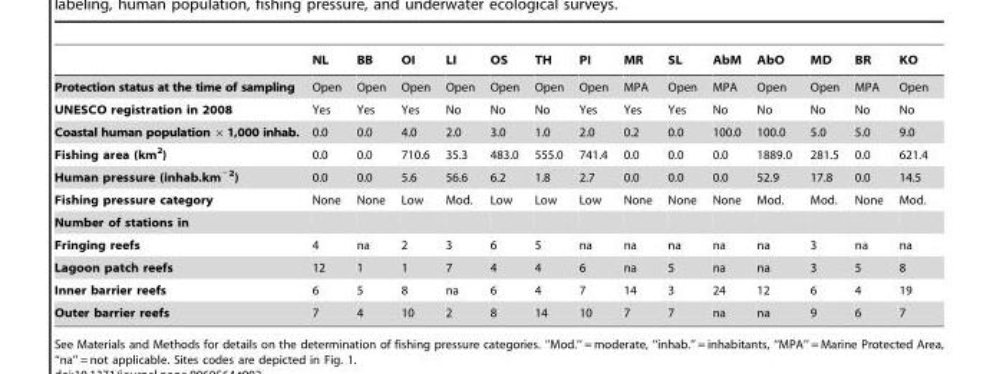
<table><thead><tr><td></td><td>NL</td><td>BB</td><td>OI</td><td>LI</td><td>OS</td><td>TH</td><td>PI</td><td>MR</td><td>SL</td><td>AbM</td><td>AbO</td><td>MD</td><td>BR</td><td>KO</td></tr></thead><tbody><tr><td>Protection status at the time of sampling</td><td>Open</td><td>Open</td><td>Open</td><td>Open</td><td>Open</td><td>Open</td><td>Open</td><td>MPA</td><td>Open</td><td>MPA</td><td>Open</td><td>Open</td><td>MPA</td><td>Open</td></tr><tr><td>UNESCO registration in 2008</td><td>Yes</td><td>Yes</td><td>Yes</td><td>No</td><td>No</td><td>No</td><td>Yes</td><td>Yes</td><td>Yes</td><td>No</td><td>No</td><td>No</td><td>No</td><td>No</td></tr><tr><td>Coastal human population ×1,000 inhab.</td><td>0.0</td><td>0.0</td><td>4.0</td><td>2.0</td><td>3.0</td><td>1.0</td><td>2.0</td><td>0.2</td><td>0.0</td><td>100.0</td><td>100.0</td><td>5.0</td><td>5.0</td><td>9.0</td></tr><tr><td>Fishing area (km<sup>2</sup>)</td><td>0.0</td><td>0.0</td><td>710.6</td><td>35.3</td><td>483.0</td><td>555.0</td><td>741.4</td><td>0.0</td><td>0.0</td><td>0.0</td><td>1889.0</td><td>281.5</td><td>0.0</td><td>621.4</td></tr><tr><td>Human pressure (inhab.km<sup>−2</sup>)</td><td>0.0</td><td>0.0</td><td>5.6</td><td>56.6</td><td>6.2</td><td>1.8</td><td>2.7</td><td>0.0</td><td>0.0</td><td>0.0</td><td>52.9</td><td>17.8</td><td>0.0</td><td>14.5</td></tr><tr><td>Fishing pressure category</td><td>None</td><td>None</td><td>Low</td><td>Mod.</td><td>Low</td><td>Low</td><td>Low</td><td>None</td><td>None</td><td>None</td><td>Mod.</td><td>Mod.</td><td>None</td><td>Mod.</td></tr><tr><td colspan="15">Number of stations in</td></tr><tr><td>Fringing reefs</td><td>4</td><td>na</td><td>2</td><td>3</td><td>6</td><td>5</td><td>na</td><td>na</td><td>na</td><td>na</td><td>na</td><td>3</td><td>na</td><td>na</td></tr><tr><td>Lagoon patch reefs</td><td>12</td><td>1</td><td>1</td><td>7</td><td>4</td><td>4</td><td>6</td><td>na</td><td>5</td><td>na</td><td>na</td><td>3</td><td>5</td><td>8</td></tr><tr><td>Inner barrier reefs</td><td>6</td><td>5</td><td>8</td><td>na</td><td>6</td><td>4</td><td>7</td><td>14</td><td>3</td><td>24</td><td>12</td><td>6</td><td>4</td><td>19</td></tr><tr><td>Outer barrier reefs</td><td>7</td><td>4</td><td>10</td><td>2</td><td>8</td><td>14</td><td>10</td><td>7</td><td>7</td><td>na</td><td>na</td><td>9</td><td>6</td><td>7</td></tr></tbody></table>